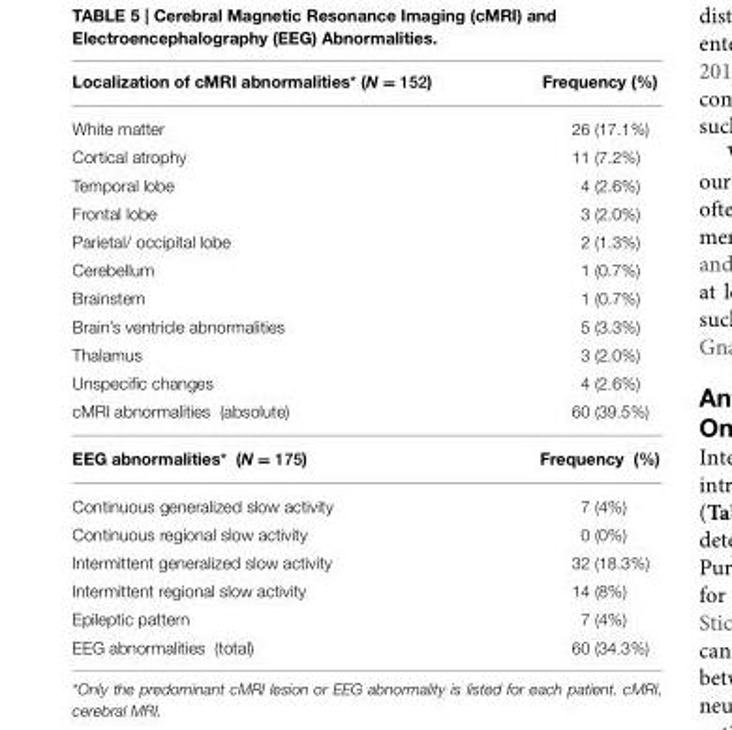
<table><thead><tr><td>Localization of cMRI abnormalities* (N = 152)</td><td>Frequency (%)</td></tr></thead><tbody><tr><td>White matter</td><td>26 (17.1%)</td></tr><tr><td>Cortical atrophy</td><td>11 (7.2%)</td></tr><tr><td>Temporal lobe</td><td>4 (2.6%)</td></tr><tr><td>Frontal lobe</td><td>3 (2.0%)</td></tr><tr><td>Parietal/ occipital lobe</td><td>2 (1.3%)</td></tr><tr><td>Cerebellum</td><td>1 (0.7%)</td></tr><tr><td>Brainstem</td><td>1 (0.7%)</td></tr><tr><td>Brain’s ventricle abnormalities</td><td>5 (3.3%)</td></tr><tr><td>Thalamus</td><td>3 (2.0%)</td></tr><tr><td>Unspecific changes</td><td>4 (2.6%)</td></tr><tr><td>cMRI abnormalities (absolute)</td><td>60 (39.5%)</td></tr><tr><td>EEG abnormalities* (N = 175)</td><td>Frequency (%)</td></tr><tr><td>Continuous generalized slow activity</td><td>7 (4%)</td></tr><tr><td>Continuous regional slow activity</td><td>0 (0%)</td></tr><tr><td>Intermittent generalized slow activity</td><td>32 (18.3%)</td></tr><tr><td>Intermittent regional slow activity</td><td>14 (8%)</td></tr><tr><td>Epileptic pattern</td><td>7 (4%)</td></tr><tr><td>EEG abnormalities (total)</td><td>60 (34.3%)</td></tr></tbody></table>